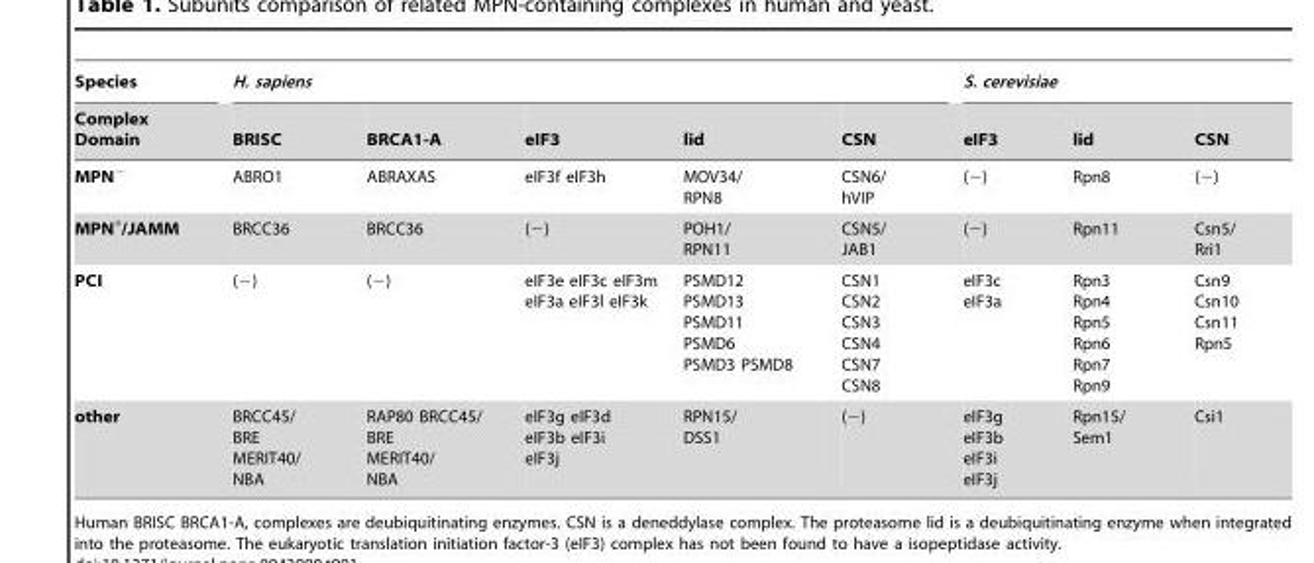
<table><thead><tr><td rowspan="2">Species Complex Domain</td><td colspan="5">H. sapiens</td><td colspan="3">S. cerevisiae</td></tr><tr><td>BRISC</td><td>BRCA1-A</td><td>eIF3</td><td>lid</td><td>CSN</td><td>eIF3</td><td>lid</td><td>CSN</td></tr></thead><tbody><tr><td>MPN<sup>−</sup></td><td>ABRO1</td><td>ABRAXAS</td><td>eIF3f eIF3h</td><td>MOV34/ RPN8</td><td>CSN6/ hVIP</td><td>(−)</td><td>Rpn8</td><td>(−)</td></tr><tr><td>MPN<sup>+</sup>/JAMM</td><td>BRCC36</td><td>BRCC36</td><td>(−)</td><td>POH1/ RPN11</td><td>CSN5/ JAB1</td><td>(−)</td><td>Rpn11</td><td>Csn5/ Rri1</td></tr><tr><td>PCI</td><td>(−)</td><td>(−)</td><td>eIF3e eIF3c eIF3m eIF3a eIF3l eIF3k</td><td>PSMD12 PSMD13 PSMD11 PSMD6 PSMD3 PSMD8</td><td>CSN1 CSN2 CSN3 CSN4 CSN7 CSN8</td><td>eIF3c eIF3a</td><td>Rpn3 Rpn4 Rpn5 Rpn6 Rpn7 Rpn9</td><td>Csn9 Csn10 Csn11 Rpn5</td></tr><tr><td>other</td><td>BRCC45/ BRE MERIT40/ NBA</td><td>RAP80 BRCC45/ BRE MERIT40/ NBA</td><td>eIF3g eIF3d eIF3b eIF3i eIF3j</td><td>RPN15/ DSS1</td><td>(−)</td><td>eIF3g eIF3b eIF3i eIF3j</td><td>Rpn15/ Sem1</td><td>Csi1</td></tr></tbody></table>